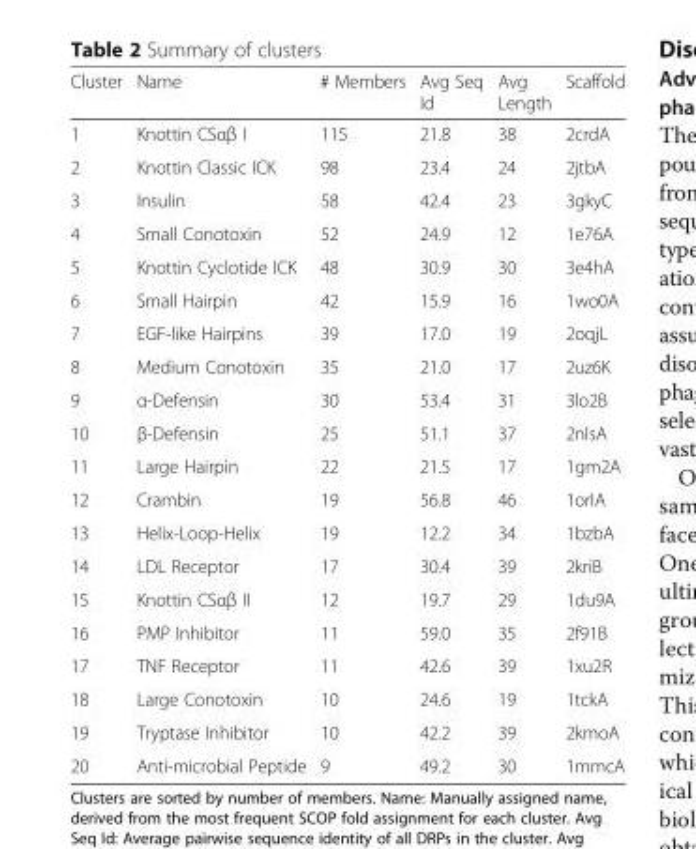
<table><thead><tr><td>Cluster</td><td>Name</td><td># Members</td><td>Avg Seq Id</td><td>Avg Length</td><td>Scaffold</td></tr></thead><tbody><tr><td>1</td><td>Knottin CSαβ I</td><td>115</td><td>21.8</td><td>38</td><td>2crdA</td></tr><tr><td>2</td><td>Knottin Classic ICK</td><td>98</td><td>23.4</td><td>24</td><td>2jtbA</td></tr><tr><td>3</td><td>Insulin</td><td>58</td><td>42.4</td><td>23</td><td>3gkyC</td></tr><tr><td>4</td><td>Small Conotoxin</td><td>52</td><td>24.9</td><td>12</td><td>1e76A</td></tr><tr><td>5</td><td>Knottin Cyclotide ICK</td><td>48</td><td>30.9</td><td>30</td><td>3e4hA</td></tr><tr><td>6</td><td>Small Hairpin</td><td>42</td><td>15.9</td><td>16</td><td>1wo0A</td></tr><tr><td>7</td><td>EGF-like Hairpins</td><td>39</td><td>17.0</td><td>19</td><td>2oqjL</td></tr><tr><td>8</td><td>Medium Conotoxin</td><td>35</td><td>21.0</td><td>17</td><td>2uz6K</td></tr><tr><td>9</td><td>α-Defensin</td><td>30</td><td>53.4</td><td>31</td><td>3lo2B</td></tr><tr><td>10</td><td>β-Defensin</td><td>25</td><td>51.1</td><td>37</td><td>2nlsA</td></tr><tr><td>11</td><td>Large Hairpin</td><td>22</td><td>21.5</td><td>17</td><td>1gm2A</td></tr><tr><td>12</td><td>Crambin</td><td>19</td><td>56.8</td><td>46</td><td>1orlA</td></tr><tr><td>13</td><td>Helix-Loop-Helix</td><td>19</td><td>12.2</td><td>34</td><td>1bzbA</td></tr><tr><td>14</td><td>LDL Receptor</td><td>17</td><td>30.4</td><td>39</td><td>2kriB</td></tr><tr><td>15</td><td>Knottin CSαβ II</td><td>12</td><td>19.7</td><td>29</td><td>1du9A</td></tr><tr><td>16</td><td>PMP Inhibitor</td><td>11</td><td>59.0</td><td>35</td><td>2f91B</td></tr><tr><td>17</td><td>TNF Receptor</td><td>11</td><td>42.6</td><td>39</td><td>1xu2R</td></tr><tr><td>18</td><td>Large Conotoxin</td><td>10</td><td>24.6</td><td>19</td><td>1tckA</td></tr><tr><td>19</td><td>Tryptase Inhibitor</td><td>10</td><td>42.2</td><td>39</td><td>2kmoA</td></tr><tr><td>20</td><td>Anti-microbial Peptide</td><td>9</td><td>49.2</td><td>30</td><td>1mmcA</td></tr></tbody></table>